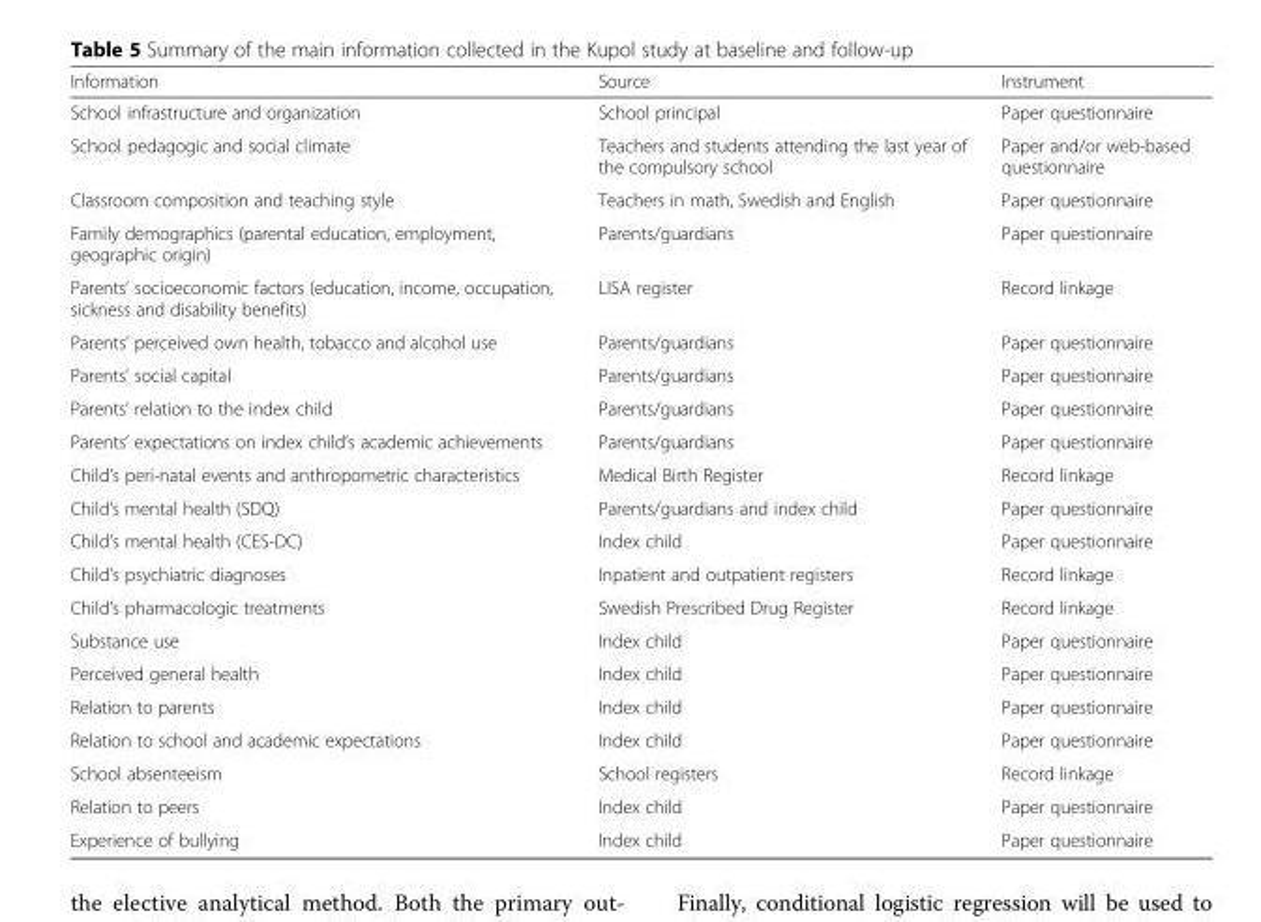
<table><thead><tr><td>Information</td><td>Source</td><td>Instrument</td></tr></thead><tbody><tr><td>School infrastructure and organization</td><td>School principal</td><td>Paper questionnaire</td></tr><tr><td>School pedagogic and social climate</td><td>Teachers and students attending the last year of the compulsory school</td><td>Paper and/or web-based questionnaire</td></tr><tr><td>Classroom composition and teaching style</td><td>Teachers in math, Swedish and English</td><td>Paper questionnaire</td></tr><tr><td>Family demographics (parental education, employment, geographic origin)</td><td>Parents/guardians</td><td>Paper questionnaire</td></tr><tr><td>Parents’ socioeconomic factors (education, income, occupation, sickness and disability benefits)</td><td>LISA register</td><td>Record linkage</td></tr><tr><td>Parents’ perceived own health, tobacco and alcohol use</td><td>Parents/guardians</td><td>Paper questionnaire</td></tr><tr><td>Parents’ social capital</td><td>Parents/guardians</td><td>Paper questionnaire</td></tr><tr><td>Parents’ relation to the index child</td><td>Parents/guardians</td><td>Paper questionnaire</td></tr><tr><td>Parents’ expectations on index child’s academic achievements</td><td>Parents/guardians</td><td>Paper questionnaire</td></tr><tr><td>Child’s peri-natal events and anthropometric characteristics</td><td>Medical Birth Register</td><td>Record linkage</td></tr><tr><td>Child’s mental health (SDQ)</td><td>Parents/guardians and index child</td><td>Paper questionnaire</td></tr><tr><td>Child’s mental health (CES-DC)</td><td>Index child</td><td>Paper questionnaire</td></tr><tr><td>Child’s psychiatric diagnoses</td><td>Inpatient and outpatient registers</td><td>Record linkage</td></tr><tr><td>Child’s pharmacologic treatments</td><td>Swedish Prescribed Drug Register</td><td>Record linkage</td></tr><tr><td>Substance use</td><td>Index child</td><td>Paper questionnaire</td></tr><tr><td>Perceived general health</td><td>Index child</td><td>Paper questionnaire</td></tr><tr><td>Relation to parents</td><td>Index child</td><td>Paper questionnaire</td></tr><tr><td>Relation to school and academic expectations</td><td>Index child</td><td>Paper questionnaire</td></tr><tr><td>School absenteeism</td><td>School registers</td><td>Record linkage</td></tr><tr><td>Relation to peers</td><td>Index child</td><td>Paper questionnaire</td></tr><tr><td>Experience of bullying</td><td>Index child</td><td>Paper questionnaire</td></tr></tbody></table>